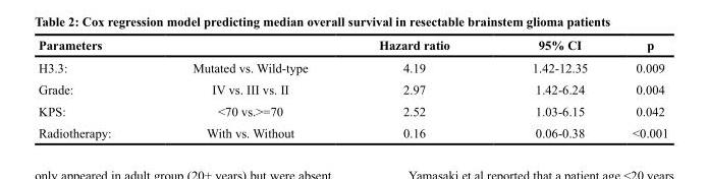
<table><thead><tr><td colspan="2">Parameters</td><td rowspan="2">Hazard ratio 4.19</td><td rowspan="2">95% CI 1.42-12.35</td><td rowspan="2">p 0.009</td></tr><tr><td>H3.3:</td><td>Mutated vs. Wild-type</td></tr></thead><tbody><tr><td>Grade:</td><td>IV vs. III vs. II</td><td>2.97</td><td>1.42-6.24</td><td>0.004</td></tr><tr><td>KPS:</td><td>&lt;70 vs.&gt;=70</td><td>2.52</td><td>1.03-6.15</td><td>0.042</td></tr><tr><td>Radiotherapy:</td><td>With vs. Without</td><td>0.16</td><td>0.06-0.38</td><td>&lt;0.001</td></tr></tbody></table>